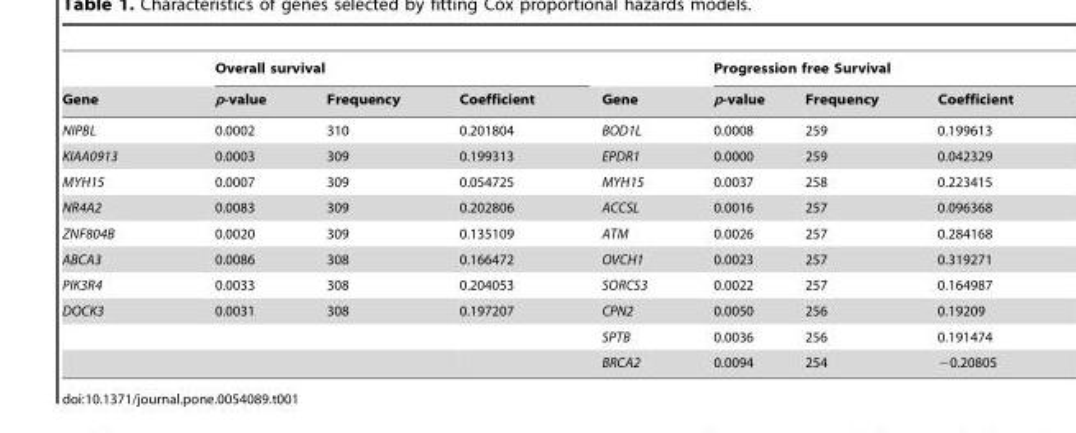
<table><thead><tr><td rowspan="2">Gene</td><td colspan="3">Overall survival</td><td rowspan="2">Gene</td><td colspan="3">Progression free Survival</td></tr><tr><td>p-value</td><td>Frequency</td><td>Coefficient</td><td>p-value</td><td>Frequency</td><td>Coefficient</td></tr></thead><tbody><tr><td>NIPBL</td><td>0.0002</td><td>310</td><td>0.201804</td><td>BOD1L</td><td>0.0008</td><td>259</td><td>0.199613</td></tr><tr><td>KIAA0913</td><td>0.0003</td><td>309</td><td>0.199313</td><td>EPDR1</td><td>0.0000</td><td>259</td><td>0.042329</td></tr><tr><td>MYH15</td><td>0.0007</td><td>309</td><td>0.054725</td><td>MYH15</td><td>0.0037</td><td>258</td><td>0.223415</td></tr><tr><td>NR4A2</td><td>0.0083</td><td>309</td><td>0.202806</td><td>ACCSL</td><td>0.0016</td><td>257</td><td>0.096368</td></tr><tr><td>ZNF804B</td><td>0.0020</td><td>309</td><td>0.135109</td><td>ATM</td><td>0.0026</td><td>257</td><td>0.284168</td></tr><tr><td>ABCA3</td><td>0.0086</td><td>308</td><td>0.166472</td><td>OVCH1</td><td>0.0023</td><td>257</td><td>0.319271</td></tr><tr><td>PIK3R4</td><td>0.0033</td><td>308</td><td>0.204053</td><td>SORCS3</td><td>0.0022</td><td>257</td><td>0.164987</td></tr><tr><td rowspan="3">DOCK3</td><td>0.0031</td><td>308</td><td>0.197207</td><td>CPN2</td><td>0.0050</td><td>256</td><td>0.19209</td></tr><tr><td></td><td></td><td></td><td>SPTB</td><td>0.0036</td><td>256</td><td>0.191474</td></tr><tr><td></td><td></td><td></td><td>BRCA2</td><td>0.0094</td><td>254</td><td>−0.20805</td></tr></tbody></table>